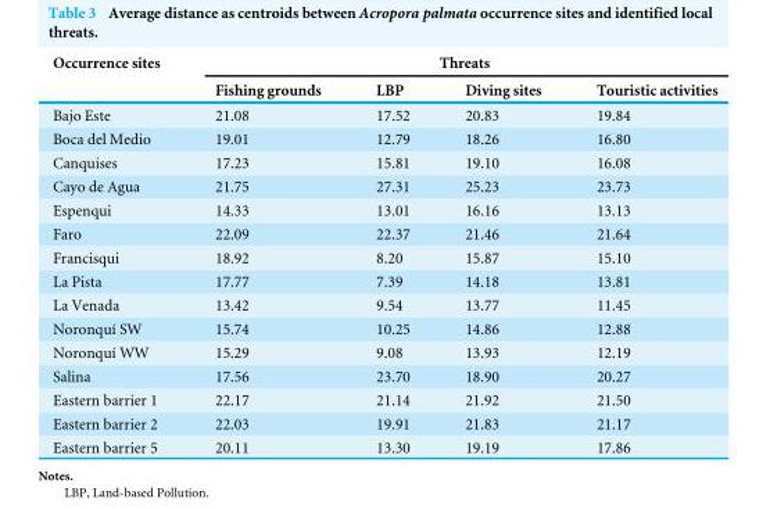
<table><thead><tr><td rowspan="2">Occurrence sites</td><td colspan="4">Threats</td></tr><tr><td>Fishing grounds</td><td>LBP</td><td>Diving sites</td><td>Touristic activities</td></tr></thead><tbody><tr><td>Bajo Este</td><td>21.08</td><td>17.52</td><td>20.83</td><td>19.84</td></tr><tr><td>Boca del Medio</td><td>19.01</td><td>12.79</td><td>18.26</td><td>16.80</td></tr><tr><td>Canquises</td><td>17.23</td><td>15.81</td><td>19.10</td><td>16.08</td></tr><tr><td>Cayo de Agua</td><td>21.75</td><td>27.31</td><td>25.23</td><td>23.73</td></tr><tr><td>Espenqui</td><td>14.33</td><td>13.01</td><td>16.16</td><td>13.13</td></tr><tr><td>Faro</td><td>22.09</td><td>22.37</td><td>21.46</td><td>21.64</td></tr><tr><td>Francisqui</td><td>18.92</td><td>8.20</td><td>15.87</td><td>15.10</td></tr><tr><td>La Pista</td><td>17.77</td><td>7.39</td><td>14.18</td><td>13.81</td></tr><tr><td>La Venada</td><td>13.42</td><td>9.54</td><td>13.77</td><td>11.45</td></tr><tr><td>Noronquí SW</td><td>15.74</td><td>10.25</td><td>14.86</td><td>12.88</td></tr><tr><td>Noronquí WW</td><td>15.29</td><td>9.08</td><td>13.93</td><td>12.19</td></tr><tr><td>Salina</td><td>17.56</td><td>23.70</td><td>18.90</td><td>20.27</td></tr><tr><td>Eastern barrier 1</td><td>22.17</td><td>21.14</td><td>21.92</td><td>21.50</td></tr><tr><td>Eastern barrier 2</td><td>22.03</td><td>19.91</td><td>21.83</td><td>21.17</td></tr><tr><td>Eastern barrier 5</td><td>20.11</td><td>13.30</td><td>19.19</td><td>17.86</td></tr></tbody></table>